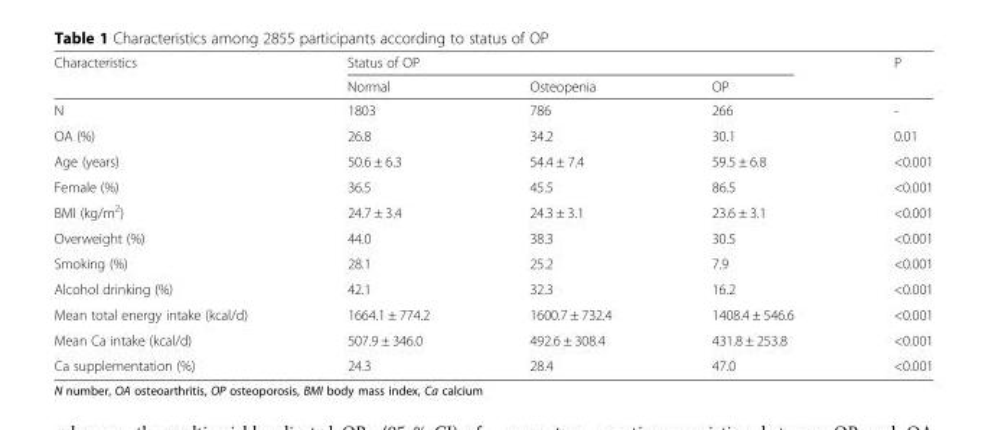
<table><thead><tr><td rowspan="2">Characteristics</td><td colspan="3">Status of OP</td><td rowspan="2">P</td></tr><tr><td>Normal</td><td>Osteopenia</td><td>OP</td></tr></thead><tbody><tr><td>N</td><td>1803</td><td>786</td><td>266</td><td>-</td></tr><tr><td>OA (%)</td><td>26.8</td><td>34.2</td><td>30.1</td><td>0.01</td></tr><tr><td>Age (years)</td><td>50.6 ± 6.3</td><td>54.4 ± 7.4</td><td>59.5 ± 6.8</td><td>&lt;0.001</td></tr><tr><td>Female (%)</td><td>36.5</td><td>45.5</td><td>86.5</td><td>&lt;0.001</td></tr><tr><td>BMI (kg/m<sup>2</sup>)</td><td>24.7 ± 3.4</td><td>24.3 ± 3.1</td><td>23.6 ± 3.1</td><td>&lt;0.001</td></tr><tr><td>Overweight (%)</td><td>44.0</td><td>38.3</td><td>30.5</td><td>&lt;0.001</td></tr><tr><td>Smoking (%)</td><td>28.1</td><td>25.2</td><td>7.9</td><td>&lt;0.001</td></tr><tr><td>Alcohol drinking (%)</td><td>42.1</td><td>32.3</td><td>16.2</td><td>&lt;0.001</td></tr><tr><td>Mean total energy intake (kcal/d)</td><td>1664.1 ± 774.2</td><td>1600.7 ± 732.4</td><td>1408.4 ± 546.6</td><td>&lt;0.001</td></tr><tr><td>Mean Ca intake (kcal/d)</td><td>507.9 ± 346.0</td><td>492.6 ± 308.4</td><td>431.8 ± 253.8</td><td>&lt;0.001</td></tr><tr><td>Ca supplementation (%)</td><td>24.3</td><td>28.4</td><td>47.0</td><td>&lt;0.001</td></tr></tbody></table>